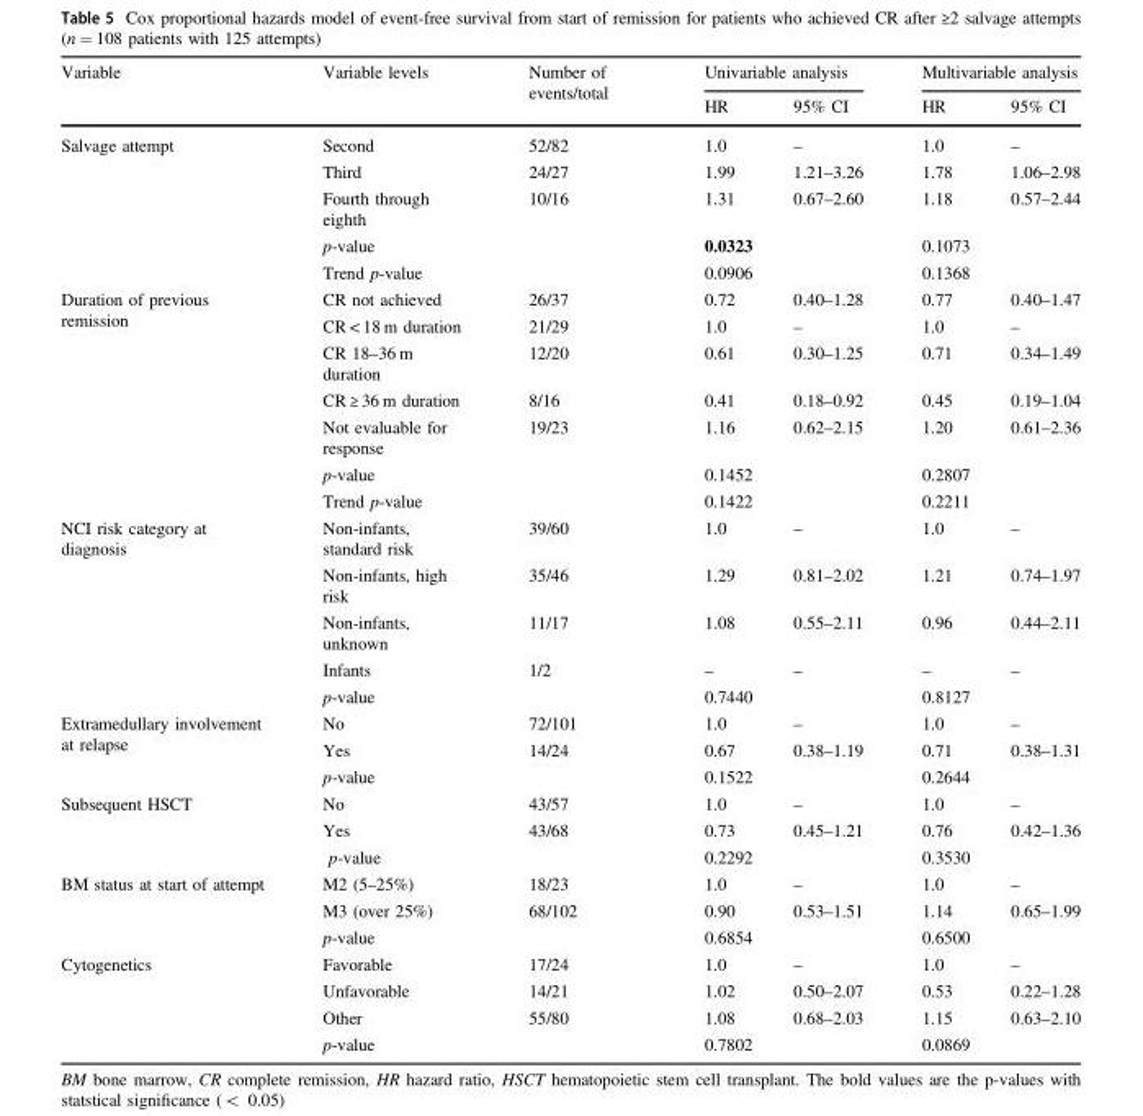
<table><thead><tr><td rowspan="2">Variable</td><td rowspan="2">Variable levels</td><td rowspan="2">Number of events/total</td><td colspan="2">Univariable analysis</td><td colspan="2">Multivariable analysis</td></tr><tr><td>HR</td><td>95% CI</td><td>HR</td><td>95% CI</td></tr></thead><tbody><tr><td rowspan="5">Salvage attempt</td><td>Second</td><td>52/82</td><td>1.0</td><td>–</td><td>1.0</td><td>–</td></tr><tr><td>Third</td><td>24/27</td><td>1.99</td><td>1.21–3.26</td><td>1.78</td><td>1.06–2.98</td></tr><tr><td>Fourth through eighth</td><td>10/16</td><td>1.31</td><td>0.67–2.60</td><td>1.18</td><td>0.57–2.44</td></tr><tr><td>p-value</td><td></td><td colspan="2">0.0323</td><td colspan="2">0.1073</td></tr><tr><td>Trend p-value</td><td></td><td colspan="2">0.0906</td><td colspan="2">0.1368</td></tr><tr><td rowspan="7">Duration of previous remission</td><td>CR not achieved</td><td>26/37</td><td>0.72</td><td>0.40–1.28</td><td>0.77</td><td>0.40–1.47</td></tr><tr><td>CR &lt; 18 m duration</td><td>21/29</td><td>1.0</td><td>–</td><td>1.0</td><td>–</td></tr><tr><td>CR 18–36 m duration</td><td>12/20</td><td>0.61</td><td>0.30–1.25</td><td>0.71</td><td>0.34–1.49</td></tr><tr><td>CR ≥ 36 m duration</td><td>8/16</td><td>0.41</td><td>0.18–0.92</td><td>0.45</td><td>0.19–1.04</td></tr><tr><td>Not evaluable for response</td><td>19/23</td><td>1.16</td><td>0.62–2.15</td><td>1.20</td><td>0.61–2.36</td></tr><tr><td>p-value</td><td></td><td colspan="2">0.1452</td><td colspan="2">0.2807</td></tr><tr><td>Trend p-value</td><td></td><td colspan="2">0.1422</td><td colspan="2">0.2211</td></tr><tr><td rowspan="5">NCI risk category at diagnosis</td><td>Non-infants, standard risk</td><td>39/60</td><td>1.0</td><td>–</td><td>1.0</td><td>–</td></tr><tr><td>Non-infants, high risk</td><td>35/46</td><td>1.29</td><td>0.81–2.02</td><td>1.21</td><td>0.74–1.97</td></tr><tr><td>Non-infants, unknown</td><td>11/17</td><td>1.08</td><td>0.55–2.11</td><td>0.96</td><td>0.44–2.11</td></tr><tr><td>Infants</td><td>1/2</td><td>–</td><td>–</td><td>–</td><td>–</td></tr><tr><td>p-value</td><td></td><td colspan="2">0.7440</td><td colspan="2">0.8127</td></tr><tr><td rowspan="3">Extramedullary involvement at relapse</td><td>No</td><td>72/101</td><td>1.0</td><td>–</td><td>1.0</td><td>–</td></tr><tr><td>Yes</td><td>14/24</td><td>0.67</td><td>0.38–1.19</td><td>0.71</td><td>0.38–1.31</td></tr><tr><td>p-value</td><td></td><td colspan="2">0.1522</td><td colspan="2">0.2644</td></tr><tr><td rowspan="3">Subsequent HSCT</td><td>No</td><td>43/57</td><td>1.0</td><td>–</td><td>1.0</td><td>–</td></tr><tr><td>Yes</td><td>43/68</td><td>0.73</td><td>0.45–1.21</td><td>0.76</td><td>0.42–1.36</td></tr><tr><td>p-value</td><td></td><td colspan="2">0.2292</td><td colspan="2">0.3530</td></tr><tr><td rowspan="3">BM status at start of attempt</td><td>M2 (5–25%)</td><td>18/23</td><td>1.0</td><td>–</td><td>1.0</td><td>–</td></tr><tr><td>M3 (over 25%)</td><td>68/102</td><td>0.90</td><td>0.53–1.51</td><td>1.14</td><td>0.65–1.99</td></tr><tr><td>p-value</td><td></td><td colspan="2">0.6854</td><td colspan="2">0.6500</td></tr><tr><td rowspan="4">Cytogenetics</td><td>Favorable</td><td>17/24</td><td>1.0</td><td>–</td><td>1.0</td><td>–</td></tr><tr><td>Unfavorable</td><td>14/21</td><td>1.02</td><td>0.50–2.07</td><td>0.53</td><td>0.22–1.28</td></tr><tr><td>Other</td><td>55/80</td><td>1.08</td><td>0.68–2.03</td><td>1.15</td><td>0.63–2.10</td></tr><tr><td>p-value</td><td></td><td colspan="2">0.7802</td><td colspan="2">0.0869</td></tr></tbody></table>